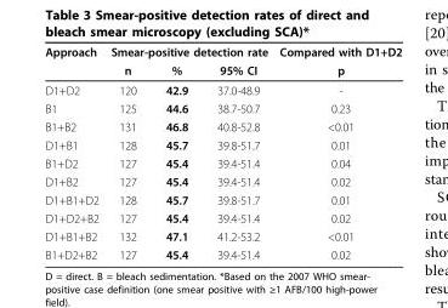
<table><thead><tr><td rowspan="2">Approach</td><td colspan="3">Smear-positive detection rate</td><td rowspan="2">Compared with D1+D2 p</td></tr><tr><td>n</td><td>%</td><td>95% CI</td></tr></thead><tbody><tr><td>D1+D2</td><td>120</td><td>42.9</td><td>37.0-48.9</td><td>-</td></tr><tr><td>B1</td><td>125</td><td>44.6</td><td>38.7-50.7</td><td>0.23</td></tr><tr><td>B1+B2</td><td>131</td><td>46.8</td><td>40.8-52.8</td><td>&lt;0.01</td></tr><tr><td>D1+B1</td><td>128</td><td>45.7</td><td>39.8-51.7</td><td>0.01</td></tr><tr><td>B1+D2</td><td>127</td><td>45.4</td><td>39.4-51.4</td><td>0.04</td></tr><tr><td>D1+B2</td><td>127</td><td>45.4</td><td>39.4-51.4</td><td>0.02</td></tr><tr><td>D1+B1+D2</td><td>128</td><td>45.7</td><td>39.8-51.7</td><td>0.01</td></tr><tr><td>D1+D2+B2</td><td>127</td><td>45.4</td><td>39.4-51.4</td><td>0.02</td></tr><tr><td>D1+B1+B2</td><td>132</td><td>47.1</td><td>41.2-53.2</td><td>&lt;0.01</td></tr><tr><td>B1+D2+B2</td><td>127</td><td>45.4</td><td>39.4-51.4</td><td>0.02</td></tr></tbody></table>